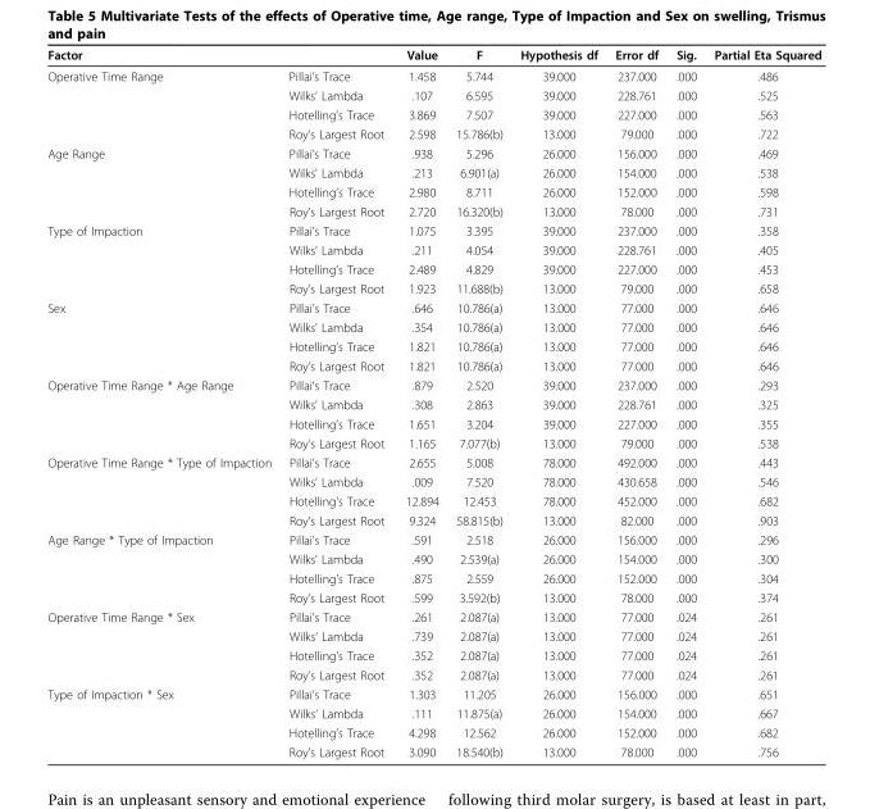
<table><thead><tr><td>Factor</td><td></td><td>Value</td><td>F</td><td>Hypothesis df</td><td>Error df</td><td>Sig.</td><td>Partial Eta Squared</td></tr></thead><tbody><tr><td rowspan="4">Operative Time Range</td><td>Pillai’s Trace</td><td>1.458</td><td>5.744</td><td>39.000</td><td>237.000</td><td>.000</td><td>.486</td></tr><tr><td>Wilks’ Lambda</td><td>.107</td><td>6.595</td><td>39.000</td><td>228.761</td><td>.000</td><td>.525</td></tr><tr><td>Hotelling’s Trace</td><td>3.869</td><td>7.507</td><td>39.000</td><td>227.000</td><td>.000</td><td>.563</td></tr><tr><td>Roy’s Largest Root</td><td>2.598</td><td>15.786(b)</td><td>13.000</td><td>79.000</td><td>.000</td><td>.722</td></tr><tr><td rowspan="4">Age Range</td><td>Pillai’s Trace</td><td>.938</td><td>5.296</td><td>26.000</td><td>156.000</td><td>.000</td><td>.469</td></tr><tr><td>Wilks’ Lambda</td><td>.213</td><td>6.901(a)</td><td>26.000</td><td>154.000</td><td>.000</td><td>.538</td></tr><tr><td>Hotelling’s Trace</td><td>2.980</td><td>8.711</td><td>26.000</td><td>152.000</td><td>.000</td><td>.598</td></tr><tr><td>Roy’s Largest Root</td><td>2.720</td><td>16.320(b)</td><td>13.000</td><td>78.000</td><td>.000</td><td>.731</td></tr><tr><td rowspan="4">Type of Impaction</td><td>Pillai’s Trace</td><td>1.075</td><td>3.395</td><td>39.000</td><td>237.000</td><td>.000</td><td>.358</td></tr><tr><td>Wilks’ Lambda</td><td>.211</td><td>4.054</td><td>39.000</td><td>228.761</td><td>.000</td><td>.405</td></tr><tr><td>Hotelling’s Trace</td><td>2.489</td><td>4.829</td><td>39.000</td><td>227.000</td><td>.000</td><td>.453</td></tr><tr><td>Roy’s Largest Root</td><td>1.923</td><td>11.688(b)</td><td>13.000</td><td>79.000</td><td>.000</td><td>.658</td></tr><tr><td rowspan="4">Sex</td><td>Pillai’s Trace</td><td>.646</td><td>10.786(a)</td><td>13.000</td><td>77.000</td><td>.000</td><td>.646</td></tr><tr><td>Wilks’ Lambda</td><td>.354</td><td>10.786(a)</td><td>13.000</td><td>77.000</td><td>.000</td><td>.646</td></tr><tr><td>Hotelling’s Trace</td><td>1.821</td><td>10.786(a)</td><td>13.000</td><td>77.000</td><td>.000</td><td>.646</td></tr><tr><td>Roy’s Largest Root</td><td>1.821</td><td>10.786(a)</td><td>13.000</td><td>77.000</td><td>.000</td><td>.646</td></tr><tr><td rowspan="4">Operative Time Range * Age Range</td><td>Pillai’s Trace</td><td>.879</td><td>2.520</td><td>39.000</td><td>237.000</td><td>.000</td><td>.293</td></tr><tr><td>Wilks’ Lambda</td><td>.308</td><td>2.863</td><td>39.000</td><td>228.761</td><td>.000</td><td>.325</td></tr><tr><td>Hotelling’s Trace</td><td>1.651</td><td>3.204</td><td>39.000</td><td>227.000</td><td>.000</td><td>.355</td></tr><tr><td>Roy’s Largest Root</td><td>1.165</td><td>7.077(b)</td><td>13.000</td><td>79.000</td><td>.000</td><td>.538</td></tr><tr><td rowspan="4">Operative Time Range * Type of Impaction</td><td>Pillai’s Trace</td><td>2.655</td><td>5.008</td><td>78.000</td><td>492.000</td><td>.000</td><td>.443</td></tr><tr><td>Wilks’ Lambda</td><td>.009</td><td>7.520</td><td>78.000</td><td>430.658</td><td>.000</td><td>.546</td></tr><tr><td>Hotelling’s Trace</td><td>12.894</td><td>12.453</td><td>78.000</td><td>452.000</td><td>.000</td><td>.682</td></tr><tr><td>Roy’s Largest Root</td><td>9.324</td><td>58.815(b)</td><td>13.000</td><td>82.000</td><td>.000</td><td>.903</td></tr><tr><td rowspan="4">Age Range * Type of Impaction</td><td>Pillai’s Trace</td><td>.591</td><td>2.518</td><td>26.000</td><td>156.000</td><td>.000</td><td>.296</td></tr><tr><td>Wilks’ Lambda</td><td>.490</td><td>2.539(a)</td><td>26.000</td><td>154.000</td><td>.000</td><td>.300</td></tr><tr><td>Hotelling’s Trace</td><td>.875</td><td>2.559</td><td>26.000</td><td>152.000</td><td>.000</td><td>.304</td></tr><tr><td>Roy’s Largest Root</td><td>.599</td><td>3.592(b)</td><td>13.000</td><td>78.000</td><td>.000</td><td>.374</td></tr><tr><td rowspan="4">Operative Time Range * Sex</td><td>Pillai’s Trace</td><td>.261</td><td>2.087(a)</td><td>13.000</td><td>77.000</td><td>.024</td><td>.261</td></tr><tr><td>Wilks’ Lambda</td><td>.739</td><td>2.087(a)</td><td>13.000</td><td>77.000</td><td>.024</td><td>.261</td></tr><tr><td>Hotelling’s Trace</td><td>.352</td><td>2.087(a)</td><td>13.000</td><td>77.000</td><td>.024</td><td>.261</td></tr><tr><td>Roy’s Largest Root</td><td>.352</td><td>2.087(a)</td><td>13.000</td><td>77.000</td><td>.024</td><td>.261</td></tr><tr><td rowspan="4">Type of Impaction * Sex</td><td>Pillai’s Trace</td><td>1.303</td><td>11.205</td><td>26.000</td><td>156.000</td><td>.000</td><td>.651</td></tr><tr><td>Wilks’ Lambda</td><td>.111</td><td>11.875(a)</td><td>26.000</td><td>154.000</td><td>.000</td><td>.667</td></tr><tr><td>Hotelling’s Trace</td><td>4.298</td><td>12.562</td><td>26.000</td><td>152.000</td><td>.000</td><td>.682</td></tr><tr><td>Roy’s Largest Root</td><td>3.090</td><td>18.540(b)</td><td>13.000</td><td>78.000</td><td>.000</td><td>.756</td></tr></tbody></table>